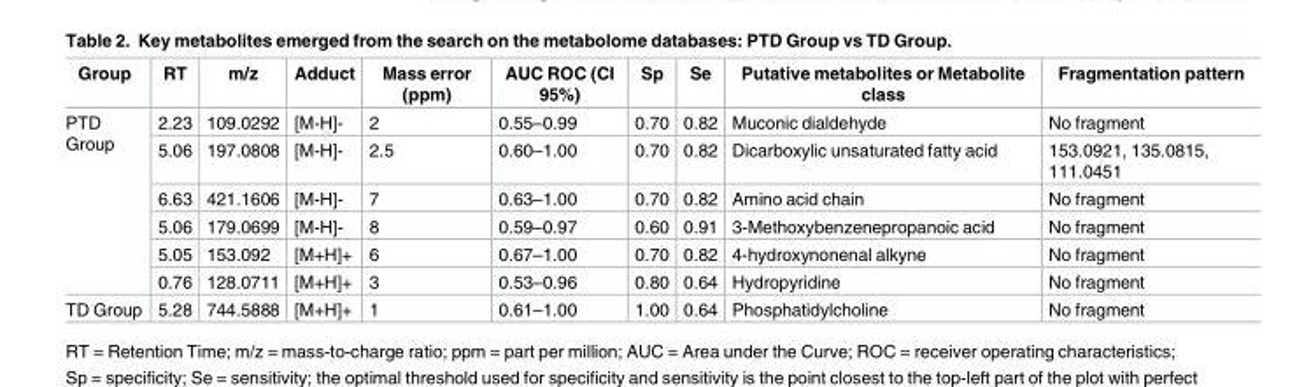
<table><thead><tr><td>Group</td><td>RT</td><td>m/z</td><td>Adduct</td><td>Mass error (ppm)</td><td>AUC ROC (CI 95%)</td><td>Sp</td><td>Se</td><td>Putative metabolites or Metabolite class</td><td>Fragmentation pattern</td></tr></thead><tbody><tr><td rowspan="6">PTD Group</td><td>2.23</td><td>109.0292</td><td>[M-H]-</td><td>2</td><td>0.55–0.99</td><td>0.70</td><td>0.82</td><td>Muconic dialdehyde</td><td>No fragment</td></tr><tr><td>5.06</td><td>197.0808</td><td>[M-H]-</td><td>2.5</td><td>0.60–1.00</td><td>0.70</td><td>0.82</td><td>Dicarboxylic unsaturated fatty acid</td><td>153.0921, 135.0815, 111.0451</td></tr><tr><td>6.63</td><td>421.1606</td><td>[M-H]-</td><td>7</td><td>0.63–1.00</td><td>0.70</td><td>0.82</td><td>Amino acid chain</td><td>No fragment</td></tr><tr><td>5.06</td><td>179.0699</td><td>[M-H]-</td><td>8</td><td>0.59–0.97</td><td>0.60</td><td>0.91</td><td>3-Methoxybenzenepropanoic acid</td><td>No fragment</td></tr><tr><td>5.05</td><td>153.092</td><td>[M+H]+</td><td>6</td><td>0.67–1.00</td><td>0.70</td><td>0.82</td><td>4-hydroxynonenal alkyne</td><td>No fragment</td></tr><tr><td>0.76</td><td>128.0711</td><td>[M+H]+</td><td>3</td><td>0.53–0.96</td><td>0.80</td><td>0.64</td><td>Hydropyridine</td><td>No fragment</td></tr><tr><td>TD Group</td><td>5.28</td><td>744.5888</td><td>[M+H]+</td><td>1</td><td>0.61–1.00</td><td>1.00</td><td>0.64</td><td>Phosphatidylcholine</td><td>No fragment</td></tr></tbody></table>